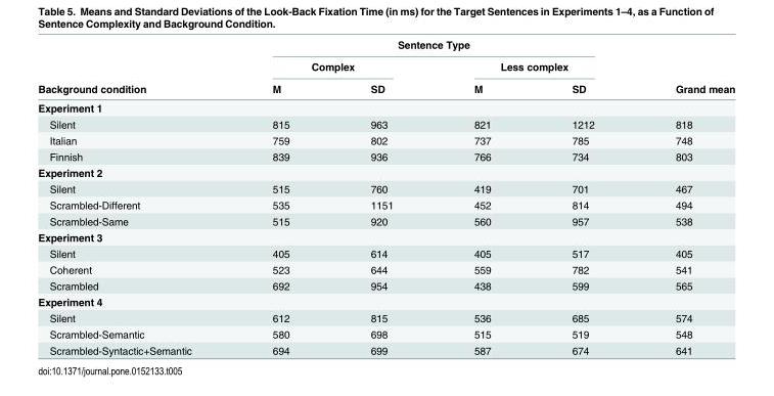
<table><thead><tr><td rowspan="3">Background condition</td><td colspan="4">Sentence Type</td><td rowspan="3">Grand mean</td></tr><tr><td colspan="2">Complex</td><td colspan="2">Less complex</td></tr><tr><td>M</td><td>SD</td><td>M</td><td>SD</td></tr></thead><tbody><tr><td colspan="6">Experiment 1</td></tr><tr><td>Silent</td><td>815</td><td>963</td><td>821</td><td>1212</td><td>818</td></tr><tr><td>Italian</td><td>759</td><td>802</td><td>737</td><td>785</td><td>748</td></tr><tr><td>Finnish</td><td>839</td><td>936</td><td>766</td><td>734</td><td>803</td></tr><tr><td colspan="6">Experiment 2</td></tr><tr><td>Silent</td><td>515</td><td>760</td><td>419</td><td>701</td><td>467</td></tr><tr><td>Scrambled-Different</td><td>535</td><td>1151</td><td>452</td><td>814</td><td>494</td></tr><tr><td>Scrambled-Same</td><td>515</td><td>920</td><td>560</td><td>957</td><td>538</td></tr><tr><td colspan="6">Experiment 3</td></tr><tr><td>Silent</td><td>405</td><td>614</td><td>405</td><td>517</td><td>405</td></tr><tr><td>Coherent</td><td>523</td><td>644</td><td>559</td><td>782</td><td>541</td></tr><tr><td>Scrambled</td><td>692</td><td>954</td><td>438</td><td>599</td><td>565</td></tr><tr><td colspan="6">Experiment 4</td></tr><tr><td>Silent</td><td>612</td><td>815</td><td>536</td><td>685</td><td>574</td></tr><tr><td>Scrambled-Semantic</td><td>580</td><td>698</td><td>515</td><td>519</td><td>548</td></tr><tr><td>Scrambled-Syntactic+Semantic</td><td>694</td><td>699</td><td>587</td><td>674</td><td>641</td></tr></tbody></table>